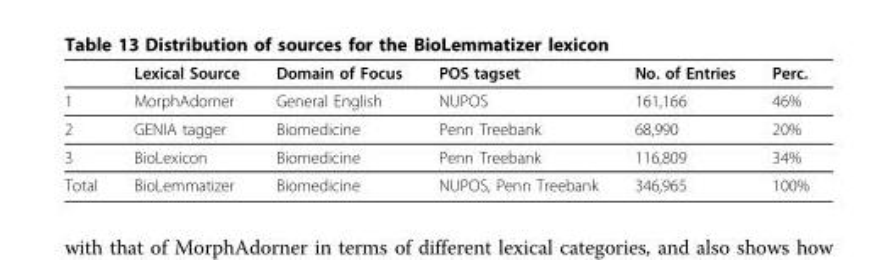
<table><thead><tr><td></td><td>Lexical Source</td><td>Domain of Focus</td><td>POS tagset</td><td>No. of Entries</td><td>Perc.</td></tr></thead><tbody><tr><td>1</td><td>MorphAdorner</td><td>General English</td><td>NUPOS</td><td>161,166</td><td>46%</td></tr><tr><td>2</td><td>GENIA tagger</td><td>Biomedicine</td><td>Penn Treebank</td><td>68,990</td><td>20%</td></tr><tr><td>3</td><td>BioLexicon</td><td>Biomedicine</td><td>Penn Treebank</td><td>116,809</td><td>34%</td></tr><tr><td>Total</td><td>BioLemmatizer</td><td>Biomedicine</td><td>NUPOS, Penn Treebank</td><td>346,965</td><td>100%</td></tr></tbody></table>